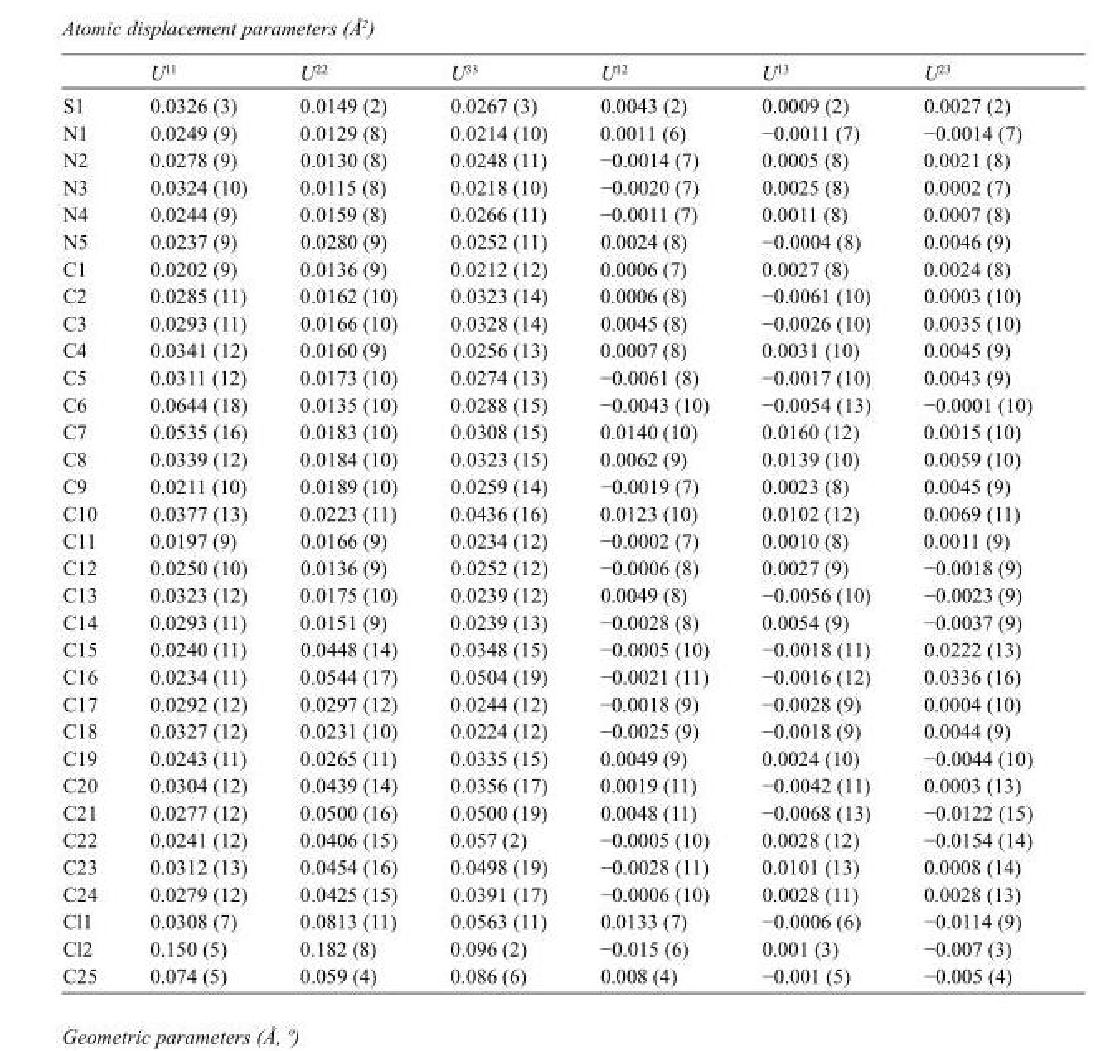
<table><thead><tr><td></td><td>U<sup>11</sup></td><td>U<sup>22</sup></td><td>U<sup>33</sup></td><td>U<sup>12</sup></td><td>U<sup>13</sup></td><td>U<sup>23</sup></td></tr></thead><tbody><tr><td>S1</td><td>0.0326 (3)</td><td>0.0149 (2)</td><td>0.0267 (3)</td><td>0.0043 (2)</td><td>0.0009 (2)</td><td>0.0027 (2)</td></tr><tr><td>N1</td><td>0.0249 (9)</td><td>0.0129 (8)</td><td>0.0214 (10)</td><td>0.0011 (6)</td><td>−0.0011 (7)</td><td>−0.0014 (7)</td></tr><tr><td>N2</td><td>0.0278 (9)</td><td>0.0130 (8)</td><td>0.0248 (11)</td><td>−0.0014 (7)</td><td>0.0005 (8)</td><td>0.0021 (8)</td></tr><tr><td>N3</td><td>0.0324 (10)</td><td>0.0115 (8)</td><td>0.0218 (10)</td><td>−0.0020 (7)</td><td>0.0025 (8)</td><td>0.0002 (7)</td></tr><tr><td>N4</td><td>0.0244 (9)</td><td>0.0159 (8)</td><td>0.0266 (11)</td><td>−0.0011 (7)</td><td>0.0011 (8)</td><td>0.0007 (8)</td></tr><tr><td>N5</td><td>0.0237 (9)</td><td>0.0280 (9)</td><td>0.0252 (11)</td><td>0.0024 (8)</td><td>−0.0004 (8)</td><td>0.0046 (9)</td></tr><tr><td>C1</td><td>0.0202 (9)</td><td>0.0136 (9)</td><td>0.0212 (12)</td><td>0.0006 (7)</td><td>0.0027 (8)</td><td>0.0024 (8)</td></tr><tr><td>C2</td><td>0.0285 (11)</td><td>0.0162 (10)</td><td>0.0323 (14)</td><td>0.0006 (8)</td><td>−0.0061 (10)</td><td>0.0003 (10)</td></tr><tr><td>C3</td><td>0.0293 (11)</td><td>0.0166 (10)</td><td>0.0328 (14)</td><td>0.0045 (8)</td><td>−0.0026 (10)</td><td>0.0035 (10)</td></tr><tr><td>C4</td><td>0.0341 (12)</td><td>0.0160 (9)</td><td>0.0256 (13)</td><td>0.0007 (8)</td><td>0.0031 (10)</td><td>0.0045 (9)</td></tr><tr><td>C5</td><td>0.0311 (12)</td><td>0.0173 (10)</td><td>0.0274 (13)</td><td>−0.0061 (8)</td><td>−0.0017 (10)</td><td>0.0043 (9)</td></tr><tr><td>C6</td><td>0.0644 (18)</td><td>0.0135 (10)</td><td>0.0288 (15)</td><td>−0.0043 (10)</td><td>−0.0054 (13)</td><td>−0.0001 (10)</td></tr><tr><td>C7</td><td>0.0535 (16)</td><td>0.0183 (10)</td><td>0.0308 (15)</td><td>0.0140 (10)</td><td>0.0160 (12)</td><td>0.0015 (10)</td></tr><tr><td>C8</td><td>0.0339 (12)</td><td>0.0184 (10)</td><td>0.0323 (15)</td><td>0.0062 (9)</td><td>0.0139 (10)</td><td>0.0059 (10)</td></tr><tr><td>C9</td><td>0.0211 (10)</td><td>0.0189 (10)</td><td>0.0259 (14)</td><td>−0.0019 (7)</td><td>0.0023 (8)</td><td>0.0045 (9)</td></tr><tr><td>C10</td><td>0.0377 (13)</td><td>0.0223 (11)</td><td>0.0436 (16)</td><td>0.0123 (10)</td><td>0.0102 (12)</td><td>0.0069 (11)</td></tr><tr><td>C11</td><td>0.0197 (9)</td><td>0.0166 (9)</td><td>0.0234 (12)</td><td>−0.0002 (7)</td><td>0.0010 (8)</td><td>0.0011 (9)</td></tr><tr><td>C12</td><td>0.0250 (10)</td><td>0.0136 (9)</td><td>0.0252 (12)</td><td>−0.0006 (8)</td><td>0.0027 (9)</td><td>−0.0018 (9)</td></tr><tr><td>C13</td><td>0.0323 (12)</td><td>0.0175 (10)</td><td>0.0239 (12)</td><td>0.0049 (8)</td><td>−0.0056 (10)</td><td>−0.0023 (9)</td></tr><tr><td>C14</td><td>0.0293 (11)</td><td>0.0151 (9)</td><td>0.0239 (13)</td><td>−0.0028 (8)</td><td>0.0054 (9)</td><td>−0.0037 (9)</td></tr><tr><td>C15</td><td>0.0240 (11)</td><td>0.0448 (14)</td><td>0.0348 (15)</td><td>−0.0005 (10)</td><td>−0.0018 (11)</td><td>0.0222 (13)</td></tr><tr><td>C16</td><td>0.0234 (11)</td><td>0.0544 (17)</td><td>0.0504 (19)</td><td>−0.0021 (11)</td><td>−0.0016 (12)</td><td>0.0336 (16)</td></tr><tr><td>C17</td><td>0.0292 (12)</td><td>0.0297 (12)</td><td>0.0244 (12)</td><td>−0.0018 (9)</td><td>−0.0028 (9)</td><td>0.0004 (10)</td></tr><tr><td>C18</td><td>0.0327 (12)</td><td>0.0231 (10)</td><td>0.0224 (12)</td><td>−0.0025 (9)</td><td>−0.0018 (9)</td><td>0.0044 (9)</td></tr><tr><td>C19</td><td>0.0243 (11)</td><td>0.0265 (11)</td><td>0.0335 (15)</td><td>0.0049 (9)</td><td>0.0024 (10)</td><td>−0.0044 (10)</td></tr><tr><td>C20</td><td>0.0304 (12)</td><td>0.0439 (14)</td><td>0.0356 (17)</td><td>0.0019 (11)</td><td>−0.0042 (11)</td><td>0.0003 (13)</td></tr><tr><td>C21</td><td>0.0277 (12)</td><td>0.0500 (16)</td><td>0.0500 (19)</td><td>0.0048 (11)</td><td>−0.0068 (13)</td><td>−0.0122 (15)</td></tr><tr><td>C22</td><td>0.0241 (12)</td><td>0.0406 (15)</td><td>0.057 (2)</td><td>−0.0005 (10)</td><td>0.0028 (12)</td><td>−0.0154 (14)</td></tr><tr><td>C23</td><td>0.0312 (13)</td><td>0.0454 (16)</td><td>0.0498 (19)</td><td>−0.0028 (11)</td><td>0.0101 (13)</td><td>0.0008 (14)</td></tr><tr><td>C24</td><td>0.0279 (12)</td><td>0.0425 (15)</td><td>0.0391 (17)</td><td>−0.0006 (10)</td><td>0.0028 (11)</td><td>0.0028 (13)</td></tr><tr><td>Cl1</td><td>0.0308 (7)</td><td>0.0813 (11)</td><td>0.0563 (11)</td><td>0.0133 (7)</td><td>−0.0006 (6)</td><td>−0.0114 (9)</td></tr><tr><td>Cl2</td><td>0.150 (5)</td><td>0.182 (8)</td><td>0.096 (2)</td><td>−0.015 (6)</td><td>0.001 (3)</td><td>−0.007 (3)</td></tr><tr><td>C25</td><td>0.074 (5)</td><td>0.059 (4)</td><td>0.086 (6)</td><td>0.008 (4)</td><td>−0.001 (5)</td><td>−0.005 (4)</td></tr></tbody></table>